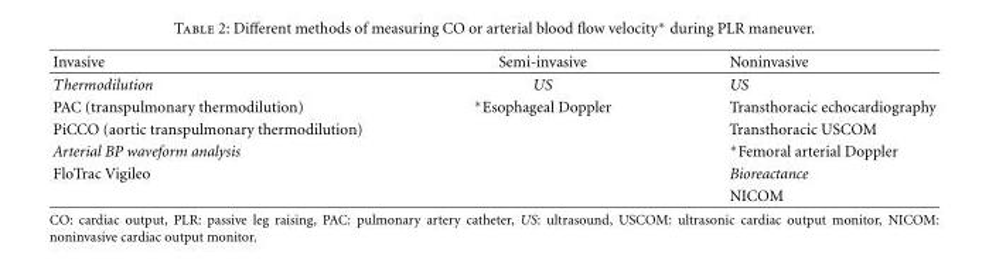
<table><thead><tr><td>Invasive</td><td>Semi-invasive</td><td>Noninvasive</td></tr></thead><tbody><tr><td>Thermodilution</td><td>US</td><td>US</td></tr><tr><td>PAC (transpulmonary thermodilution)</td><td>∗Esophageal Doppler</td><td>Transthoracic echocardiography</td></tr><tr><td>PiCCO (aortic transpulmonary thermodilution)</td><td></td><td>Transthoracic USCOM</td></tr><tr><td>Arterial BP waveform analysis</td><td></td><td>∗Femoral arterial Doppler</td></tr><tr><td rowspan="2">FloTrac Vigileo</td><td></td><td>Bioreactance</td></tr><tr><td></td><td>NICOM</td></tr></tbody></table>